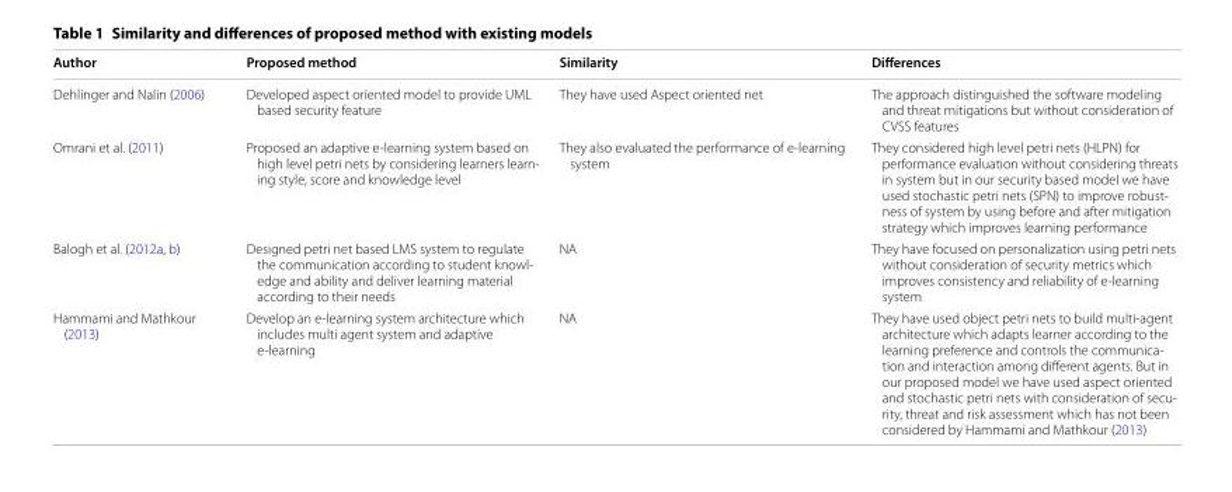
<table><thead><tr><td>Author</td><td>Proposed method</td><td>Similarity</td><td>Differences</td></tr></thead><tbody><tr><td>Dehlinger and Nalin (2006)</td><td>Developed aspect oriented model to provide UML based security feature</td><td>They have used Aspect oriented net</td><td>The approach distinguished the software modeling and threat mitigations but without consideration of CVSS features</td></tr><tr><td>Omrani et al. (2011)</td><td>Proposed an adaptive e-learning system based on high level petri nets by considering learners learn- ing style, score and knowledge level</td><td>They also evaluated the performance of e-learning system</td><td>They considered high level petri nets (HLPN) for performance evaluation without considering threats in system but in our security based model we have used stochastic petri nets (SPN) to improve robust- ness of system by using before and after mitigation strategy which improves learning performance</td></tr><tr><td>Balogh et al. (2012a, b)</td><td>Designed petri net based LMS system to regulate the communication according to student knowl- edge and ability and deliver learning material according to their needs</td><td>NA</td><td>They have focused on personalization using petri nets without consideration of security metrics which improves consistency and reliability of e-learning system</td></tr><tr><td>Hammami and Mathkour (2013)</td><td>Develop an e-learning system architecture which includes multi agent system and adaptive e-learning</td><td>NA</td><td>They have used object petri nets to build multi-agent architecture which adapts learner according to the learning preference and controls the communica- tion and interaction among different agents. But in our proposed model we have used aspect oriented and stochastic petri nets with consideration of secu- rity, threat and risk assessment which has not been considered by Hammami and Mathkour (2013)</td></tr></tbody></table>